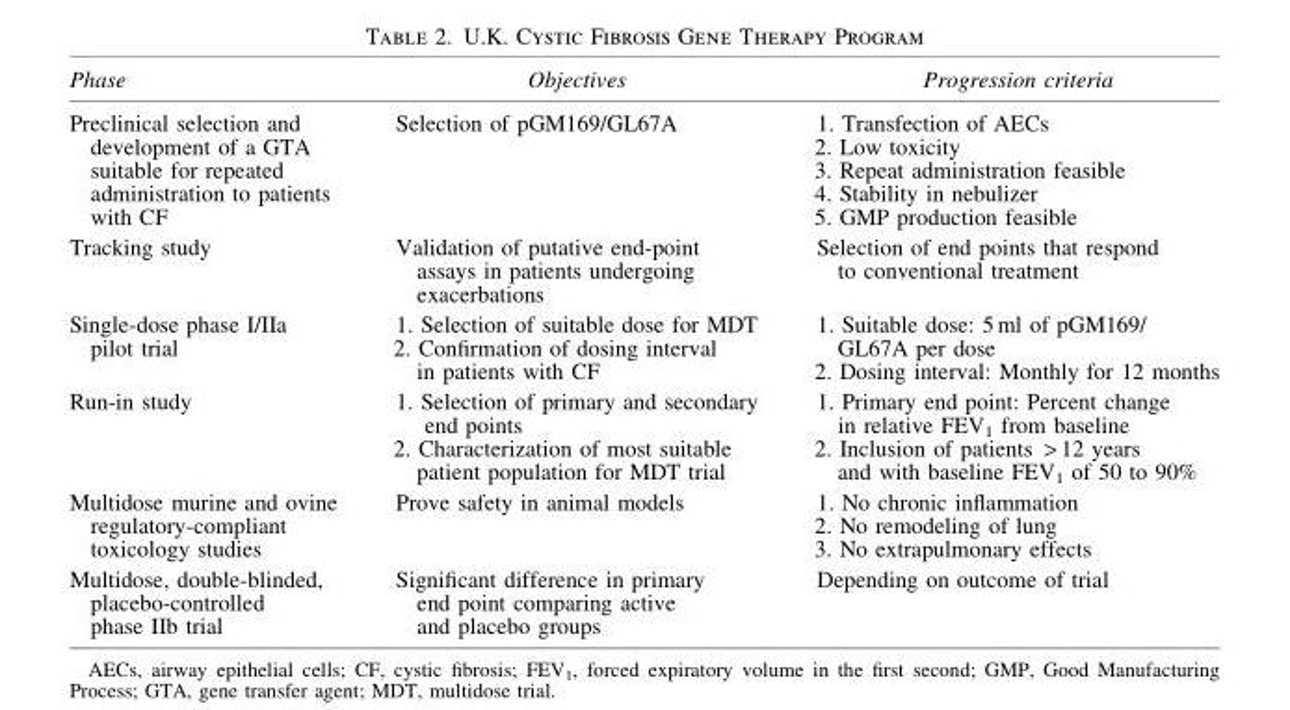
<table><thead><tr><td>Phase</td><td>Objectives</td><td>Progression criteria</td></tr></thead><tbody><tr><td>Preclinical selection and development of a GTA suitable for repeated administration to patients with CF</td><td>Selection of pGM169/GL67A</td><td>1. Transfection of AECs 2. Low toxicity 3. Repeat administration feasible 4. Stability in nebulizer 5. GMP production feasible</td></tr><tr><td>Tracking study</td><td>Validation of putative end-point assays in patients undergoing exacerbations</td><td>Selection of end points that respond to conventional treatment</td></tr><tr><td>Single-dose phase I/IIa pilot trial</td><td>1. Selection of suitable dose for MDT 2. Confirmation of dosing interval in patients with CF</td><td>1. Suitable dose: 5 ml of pGM169/ GL67A per dose 2. Dosing interval: Monthly for 12 months</td></tr><tr><td>Run-in study</td><td>1. Selection of primary and secondary end points 2. Characterization of most suitable patient population for MDT trial</td><td>1. Primary end point: Percent change in relative FEV<sub>1</sub> from baseline 2. Inclusion of patients &gt; 12 years and with baseline FEV<sub>1</sub> of 50 to 90%</td></tr><tr><td>Multidose murine and ovine regulatory-compliant toxicology studies</td><td>Prove safety in animal models</td><td>1. No chronic inflammation 2. No remodeling of lung 3. No extrapulmonary effects</td></tr><tr><td>Multidose, double-blinded, placebo-controlled phase IIb trial</td><td>Significant difference in primary end point comparing active and placebo groups</td><td>Depending on outcome of trial</td></tr></tbody></table>